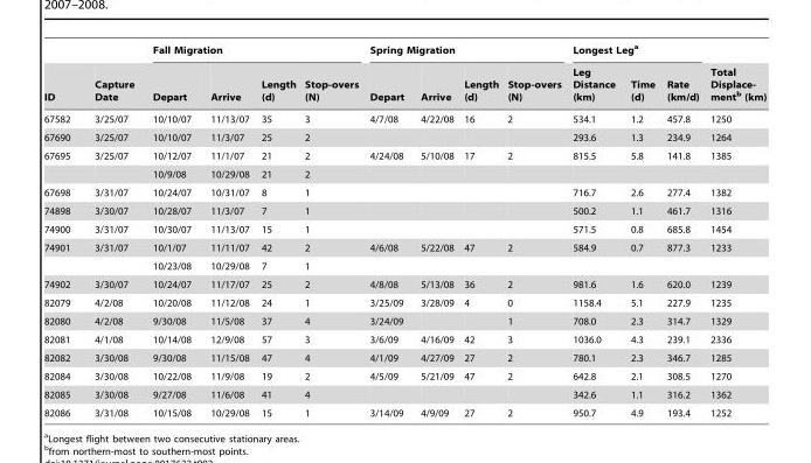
<table><thead><tr><td rowspan="2">ID</td><td rowspan="2">Capture Date</td><td colspan="4">Fall Migration</td><td colspan="4">Spring Migration</td><td colspan="3">Longest Leg<sup>a</sup></td><td rowspan="2">Total Displace- ment<sup>b</sup> (km)</td></tr><tr><td>Depart</td><td>Arrive</td><td>Length (d)</td><td>Stop-overs (N)</td><td>Depart</td><td>Arrive</td><td>Length (d)</td><td>Stop-overs (N)</td><td>Leg Distance (km)</td><td>Time (d)</td><td>Rate (km/d)</td></tr></thead><tbody><tr><td>67582</td><td>3/25/07</td><td>10/10/07</td><td>11/13/07</td><td>35</td><td>3</td><td>4/7/08</td><td>4/22/08</td><td>16</td><td>2</td><td>534.1</td><td>1.2</td><td>457.8</td><td>1250</td></tr><tr><td>67690</td><td>3/25/07</td><td>10/10/07</td><td>11/3/07</td><td>25</td><td>2</td><td></td><td></td><td></td><td></td><td>293.6</td><td>1.3</td><td>234.9</td><td>1264</td></tr><tr><td rowspan="2">67695</td><td>3/25/07</td><td>10/12/07</td><td>11/1/07</td><td>21</td><td>2</td><td>4/24/08</td><td>5/10/08</td><td>17</td><td>2</td><td>815.5</td><td>5.8</td><td>141.8</td><td>1385</td></tr><tr><td></td><td>10/9/08</td><td>10/29/08</td><td>21</td><td>2</td><td></td><td></td><td></td><td></td><td></td><td></td><td></td><td></td></tr><tr><td>67698</td><td>3/31/07</td><td>10/24/07</td><td>10/31/07</td><td>8</td><td>1</td><td></td><td></td><td></td><td></td><td>716.7</td><td>2.6</td><td>277.4</td><td>1382</td></tr><tr><td>74898</td><td>3/30/07</td><td>10/28/07</td><td>11/3/07</td><td>7</td><td>1</td><td></td><td></td><td></td><td></td><td>500.2</td><td>1.1</td><td>461.7</td><td>1316</td></tr><tr><td>74900</td><td>3/31/07</td><td>10/30/07</td><td>11/13/07</td><td>15</td><td>1</td><td></td><td></td><td></td><td></td><td>571.5</td><td>0.8</td><td>685.8</td><td>1454</td></tr><tr><td rowspan="2">74901</td><td>3/31/07</td><td>10/1/07</td><td>11/11/07</td><td>42</td><td>2</td><td>4/6/08</td><td>5/22/08</td><td>47</td><td>2</td><td>584.9</td><td>0.7</td><td>877.3</td><td>1233</td></tr><tr><td></td><td>10/23/08</td><td>10/29/08</td><td>7</td><td>1</td><td></td><td></td><td></td><td></td><td></td><td></td><td></td><td></td></tr><tr><td>74902</td><td>3/30/07</td><td>10/24/07</td><td>11/17/07</td><td>25</td><td>2</td><td>4/8/08</td><td>5/13/08</td><td>36</td><td>2</td><td>981.6</td><td>1.6</td><td>620.0</td><td>1239</td></tr><tr><td>82079</td><td>4/2/08</td><td>10/20/08</td><td>11/12/08</td><td>24</td><td>1</td><td>3/25/09</td><td>3/28/09</td><td>4</td><td>0</td><td>1158.4</td><td>5.1</td><td>227.9</td><td>1235</td></tr><tr><td>82080</td><td>4/2/08</td><td>9/30/08</td><td>11/5/08</td><td>37</td><td>4</td><td>3/24/09</td><td></td><td></td><td>1</td><td>708.0</td><td>2.3</td><td>314.7</td><td>1329</td></tr><tr><td>82081</td><td>4/1/08</td><td>10/14/08</td><td>12/9/08</td><td>57</td><td>3</td><td>3/6/09</td><td>4/16/09</td><td>42</td><td>3</td><td>1036.0</td><td>4.3</td><td>239.1</td><td>2336</td></tr><tr><td>82082</td><td>3/30/08</td><td>9/30/08</td><td>11/15/08</td><td>47</td><td>4</td><td>4/1/09</td><td>4/27/09</td><td>27</td><td>2</td><td>780.1</td><td>2.3</td><td>346.7</td><td>1285</td></tr><tr><td>82084</td><td>3/30/08</td><td>10/22/08</td><td>11/9/08</td><td>19</td><td>2</td><td>4/5/09</td><td>5/21/09</td><td>47</td><td>2</td><td>642.8</td><td>2.1</td><td>308.5</td><td>1270</td></tr><tr><td>82085</td><td>3/30/08</td><td>9/27/08</td><td>11/6/08</td><td>41</td><td>4</td><td></td><td></td><td></td><td></td><td>342.6</td><td>1.1</td><td>316.2</td><td>1362</td></tr><tr><td>82086</td><td>3/31/08</td><td>10/15/08</td><td>10/29/08</td><td>15</td><td>1</td><td>3/14/09</td><td>4/9/09</td><td>27</td><td>2</td><td>950.7</td><td>4.9</td><td>193.4</td><td>1252</td></tr></tbody></table>